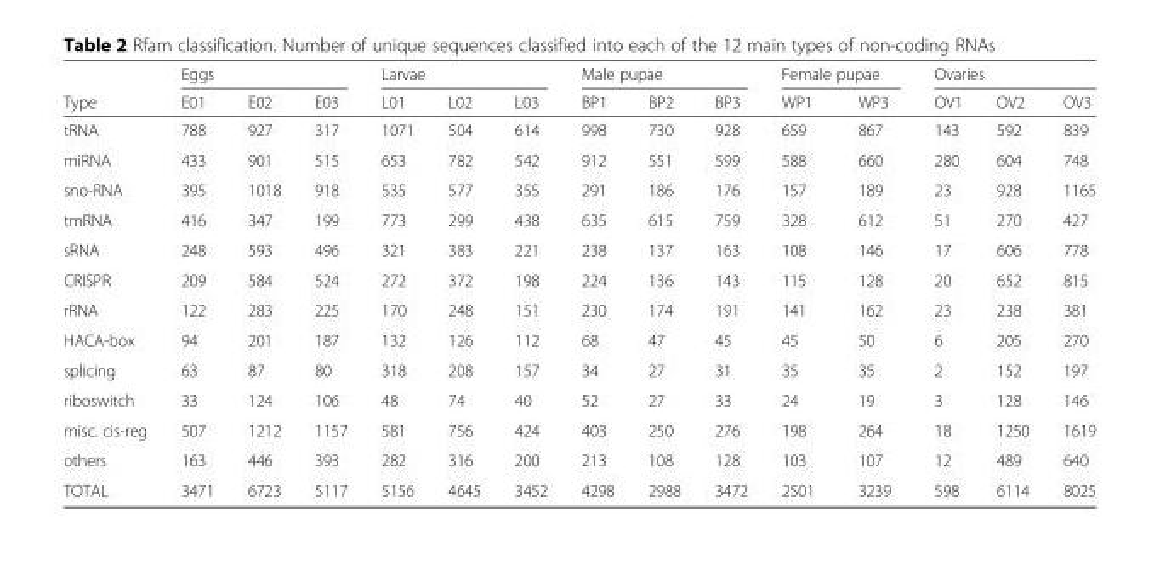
<table><thead><tr><td rowspan="2">Type</td><td colspan="3">Eggs</td><td colspan="3">Larvae</td><td colspan="3">Male pupae</td><td colspan="2">Female pupae</td><td colspan="3">Ovaries</td></tr><tr><td>E01</td><td>E02</td><td>E03</td><td>L01</td><td>L02</td><td>L03</td><td>BP1</td><td>BP2</td><td>BP3</td><td>WP1</td><td>WP3</td><td>OV1</td><td>OV2</td><td>OV3</td></tr></thead><tbody><tr><td>tRNA</td><td>788</td><td>927</td><td>317</td><td>1071</td><td>504</td><td>614</td><td>998</td><td>730</td><td>928</td><td>659</td><td>867</td><td>143</td><td>592</td><td>839</td></tr><tr><td>miRNA</td><td>433</td><td>901</td><td>515</td><td>653</td><td>782</td><td>542</td><td>912</td><td>551</td><td>599</td><td>588</td><td>660</td><td>280</td><td>604</td><td>748</td></tr><tr><td>sno-RNA</td><td>395</td><td>1018</td><td>918</td><td>535</td><td>577</td><td>355</td><td>291</td><td>186</td><td>176</td><td>157</td><td>189</td><td>23</td><td>928</td><td>1165</td></tr><tr><td>tmRNA</td><td>416</td><td>347</td><td>199</td><td>773</td><td>299</td><td>438</td><td>635</td><td>615</td><td>759</td><td>328</td><td>612</td><td>51</td><td>270</td><td>427</td></tr><tr><td>sRNA</td><td>248</td><td>593</td><td>496</td><td>321</td><td>383</td><td>221</td><td>238</td><td>137</td><td>163</td><td>108</td><td>146</td><td>17</td><td>606</td><td>778</td></tr><tr><td>CRISPR</td><td>209</td><td>584</td><td>524</td><td>272</td><td>372</td><td>198</td><td>224</td><td>136</td><td>143</td><td>115</td><td>128</td><td>20</td><td>652</td><td>815</td></tr><tr><td>rRNA</td><td>122</td><td>283</td><td>225</td><td>170</td><td>248</td><td>151</td><td>230</td><td>174</td><td>191</td><td>141</td><td>162</td><td>23</td><td>238</td><td>381</td></tr><tr><td>HACA-box</td><td>94</td><td>201</td><td>187</td><td>132</td><td>126</td><td>112</td><td>68</td><td>47</td><td>45</td><td>45</td><td>50</td><td>6</td><td>205</td><td>270</td></tr><tr><td>splicing</td><td>63</td><td>87</td><td>80</td><td>318</td><td>208</td><td>157</td><td>34</td><td>27</td><td>31</td><td>35</td><td>35</td><td>2</td><td>152</td><td>197</td></tr><tr><td>riboswitch</td><td>33</td><td>124</td><td>106</td><td>48</td><td>74</td><td>40</td><td>52</td><td>27</td><td>33</td><td>24</td><td>19</td><td>3</td><td>128</td><td>146</td></tr><tr><td>misc. cis-reg</td><td>507</td><td>1212</td><td>1157</td><td>581</td><td>756</td><td>424</td><td>403</td><td>250</td><td>276</td><td>198</td><td>264</td><td>18</td><td>1250</td><td>1619</td></tr><tr><td>others</td><td>163</td><td>446</td><td>393</td><td>282</td><td>316</td><td>200</td><td>213</td><td>108</td><td>128</td><td>103</td><td>107</td><td>12</td><td>489</td><td>640</td></tr><tr><td>TOTAL</td><td>3471</td><td>6723</td><td>5117</td><td>5156</td><td>4645</td><td>3452</td><td>4298</td><td>2988</td><td>3472</td><td>2501</td><td>3239</td><td>598</td><td>6114</td><td>8025</td></tr></tbody></table>